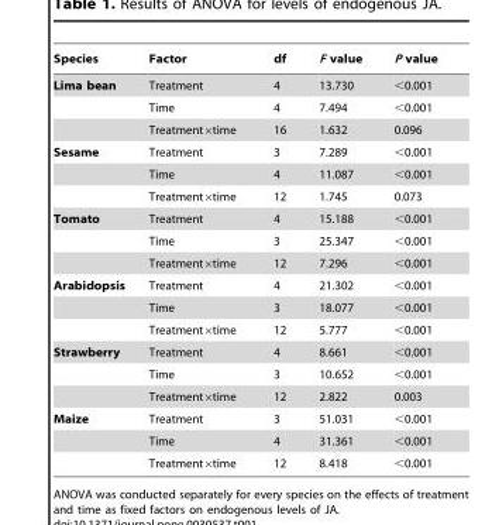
<table><thead><tr><td>Species</td><td>Factor</td><td>df</td><td>F value</td><td>P value</td></tr></thead><tbody><tr><td rowspan="3">Lima bean</td><td>Treatment</td><td>4</td><td>13.730</td><td>&lt;0.001</td></tr><tr><td>Time</td><td>4</td><td>7.494</td><td>&lt;0.001</td></tr><tr><td>Treatment×time</td><td>16</td><td>1.632</td><td>0.096</td></tr><tr><td rowspan="3">Sesame</td><td>Treatment</td><td>3</td><td>7.289</td><td>&lt;0.001</td></tr><tr><td>Time</td><td>4</td><td>11.087</td><td>&lt;0.001</td></tr><tr><td>Treatment×time</td><td>12</td><td>1.745</td><td>0.073</td></tr><tr><td rowspan="3">Tomato</td><td>Treatment</td><td>4</td><td>15.188</td><td>&lt;0.001</td></tr><tr><td>Time</td><td>3</td><td>25.347</td><td>&lt;0.001</td></tr><tr><td>Treatment×time</td><td>12</td><td>7.296</td><td>&lt;0.001</td></tr><tr><td rowspan="3">Arabidopsis</td><td>Treatment</td><td>4</td><td>21.302</td><td>&lt;0.001</td></tr><tr><td>Time</td><td>3</td><td>18.077</td><td>&lt;0.001</td></tr><tr><td>Treatment×time</td><td>12</td><td>5.777</td><td>&lt;0.001</td></tr><tr><td rowspan="3">Strawberry</td><td>Treatment</td><td>4</td><td>8.661</td><td>&lt;0.001</td></tr><tr><td>Time</td><td>3</td><td>10.652</td><td>&lt;0.001</td></tr><tr><td>Treatment×time</td><td>12</td><td>2.822</td><td>0.003</td></tr><tr><td rowspan="3">Maize</td><td>Treatment</td><td>3</td><td>51.031</td><td>&lt;0.001</td></tr><tr><td>Time</td><td>4</td><td>31.361</td><td>&lt;0.001</td></tr><tr><td>Treatment×time</td><td>12</td><td>8.418</td><td>&lt;0.001</td></tr></tbody></table>